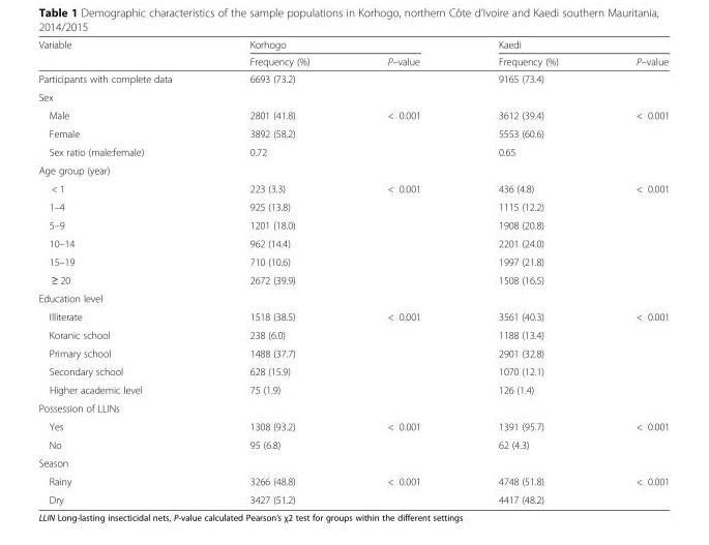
<table><thead><tr><td rowspan="2">Variable</td><td colspan="2">Korhogo</td><td colspan="2">Kaedi</td></tr><tr><td>Frequency (%)</td><td>P–value</td><td>Frequency (%)</td><td>P–value</td></tr></thead><tbody><tr><td>Participants with complete data</td><td>6693 (73.2)</td><td></td><td>9165 (73.4)</td><td></td></tr><tr><td colspan="5">Sex</td></tr><tr><td>Male</td><td>2801 (41.8)</td><td>&lt; 0.001</td><td>3612 (39.4)</td><td>&lt; 0.001</td></tr><tr><td>Female</td><td>3892 (58.2)</td><td></td><td>5553 (60.6)</td><td></td></tr><tr><td>Sex ratio (male:female)</td><td>0.72</td><td></td><td>0.65</td><td></td></tr><tr><td colspan="5">Age group (year)</td></tr><tr><td>&lt; 1</td><td>223 (3.3)</td><td>&lt; 0.001</td><td>436 (4.8)</td><td>&lt; 0.001</td></tr><tr><td>1–4</td><td>925 (13.8)</td><td></td><td>1115 (12.2)</td><td></td></tr><tr><td>5–9</td><td>1201 (18.0)</td><td></td><td>1908 (20.8)</td><td></td></tr><tr><td>10–14</td><td>962 (14.4)</td><td></td><td>2201 (24.0)</td><td></td></tr><tr><td>15–19</td><td>710 (10.6)</td><td></td><td>1997 (21.8)</td><td></td></tr><tr><td>≥ 20</td><td>2672 (39.9)</td><td></td><td>1508 (16.5)</td><td></td></tr><tr><td colspan="5">Education level</td></tr><tr><td>Illiterate</td><td>1518 (38.5)</td><td>&lt; 0.001</td><td>3561 (40.3)</td><td>&lt; 0.001</td></tr><tr><td>Koranic school</td><td>238 (6.0)</td><td></td><td>1188 (13.4)</td><td></td></tr><tr><td>Primary school</td><td>1488 (37.7)</td><td></td><td>2901 (32.8)</td><td></td></tr><tr><td>Secondary school</td><td>628 (15.9)</td><td></td><td>1070 (12.1)</td><td></td></tr><tr><td>Higher academic level</td><td>75 (1.9)</td><td></td><td>126 (1.4)</td><td></td></tr><tr><td colspan="5">Possession of LLINs</td></tr><tr><td>Yes</td><td>1308 (93.2)</td><td>&lt; 0.001</td><td>1391 (95.7)</td><td>&lt; 0.001</td></tr><tr><td>No</td><td>95 (6.8)</td><td></td><td>62 (4.3)</td><td></td></tr><tr><td colspan="5">Season</td></tr><tr><td>Rainy</td><td>3266 (48.8)</td><td>&lt; 0.001</td><td>4748 (51.8)</td><td>&lt; 0.001</td></tr><tr><td>Dry</td><td>3427 (51.2)</td><td></td><td>4417 (48.2)</td><td></td></tr></tbody></table>